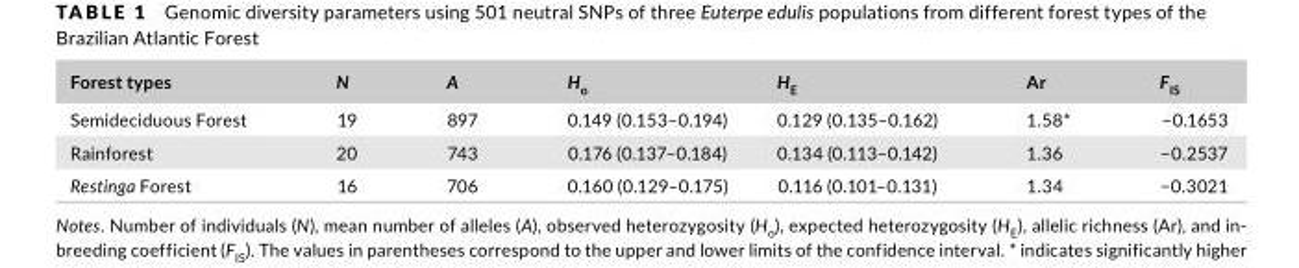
<table><thead><tr><td>Forest types</td><td>N</td><td>A</td><td>H<sub>o</sub></td><td>H<sub>E</sub></td><td>Ar</td><td>F<sub>IS</sub></td></tr></thead><tbody><tr><td>Semideciduous Forest</td><td>19</td><td>897</td><td>0.149 (0.153–0.194)</td><td>0.129 (0.135–0.162)</td><td>1.58*</td><td>−0.1653</td></tr><tr><td>Rainforest</td><td>20</td><td>743</td><td>0.176 (0.137–0.184)</td><td>0.134 (0.113–0.142)</td><td>1.36</td><td>−0.2537</td></tr><tr><td>Restinga Forest</td><td>16</td><td>706</td><td>0.160 (0.129–0.175)</td><td>0.116 (0.101–0.131)</td><td>1.34</td><td>−0.3021</td></tr></tbody></table>